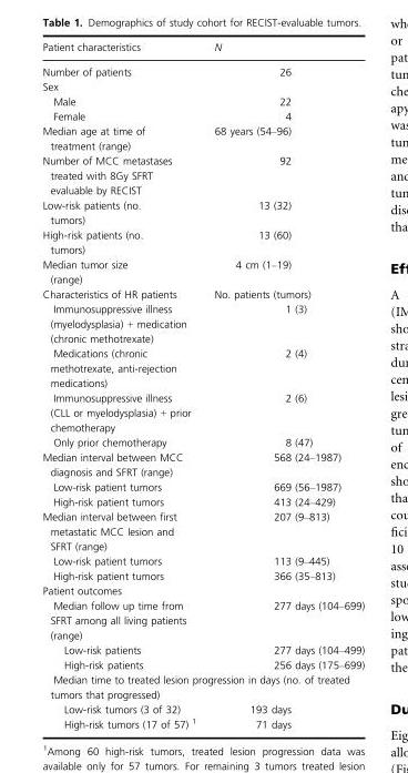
<table><thead><tr><td>Patient characteristics</td><td>N</td></tr></thead><tbody><tr><td>Number of patients</td><td>26</td></tr><tr><td colspan="2">Sex</td></tr><tr><td>Male</td><td>22</td></tr><tr><td>Female</td><td>4</td></tr><tr><td>Median age at time of treatment (range)</td><td>68 years (54–96)</td></tr><tr><td>Number of MCC metastases treated with 8Gy SFRT evaluable by RECIST</td><td>92</td></tr><tr><td>Low-risk patients (no. tumors)</td><td>13 (32)</td></tr><tr><td>High-risk patients (no. tumors)</td><td>13 (60)</td></tr><tr><td>Median tumor size (range)</td><td>4 cm (1–19)</td></tr><tr><td>Characteristics of HR patients</td><td>No. patients (tumors)</td></tr><tr><td>Immunosuppressive illness (myelodysplasia) + medication (chronic methotrexate)</td><td>1 (3)</td></tr><tr><td>Medications (chronic methotrexate, anti-rejection medications)</td><td>2 (4)</td></tr><tr><td>Immunosuppressive illness (CLL or myelodysplasia) + prior chemotherapy</td><td>2 (6)</td></tr><tr><td>Only prior chemotherapy</td><td>8 (47)</td></tr><tr><td>Median interval between MCC diagnosis and SFRT (range)</td><td>568 (24–1987)</td></tr><tr><td>Low-risk patient tumors</td><td>669 (56–1987)</td></tr><tr><td>High-risk patient tumors</td><td>413 (24–429)</td></tr><tr><td>Median interval between first metastatic MCC lesion and SFRT (range)</td><td>207 (9–813)</td></tr><tr><td>Low-risk patient tumors</td><td>113 (9–445)</td></tr><tr><td>High-risk patient tumors</td><td>366 (35–813)</td></tr><tr><td colspan="2">Patient outcomes</td></tr><tr><td>Median follow up time from SFRT among all living patients (range)</td><td>277 days (104–699)</td></tr><tr><td>Low-risk patients</td><td>277 days (104–499)</td></tr><tr><td>High-risk patients</td><td>256 days (175–699)</td></tr><tr><td colspan="2">Median time to treated lesion progression in days (no. of treated tumors that progressed)</td></tr><tr><td>Low-risk tumors (3 of 32)</td><td>193 days</td></tr><tr><td>High-risk tumors (17 of 57) 1</td><td>71 days</td></tr></tbody></table>